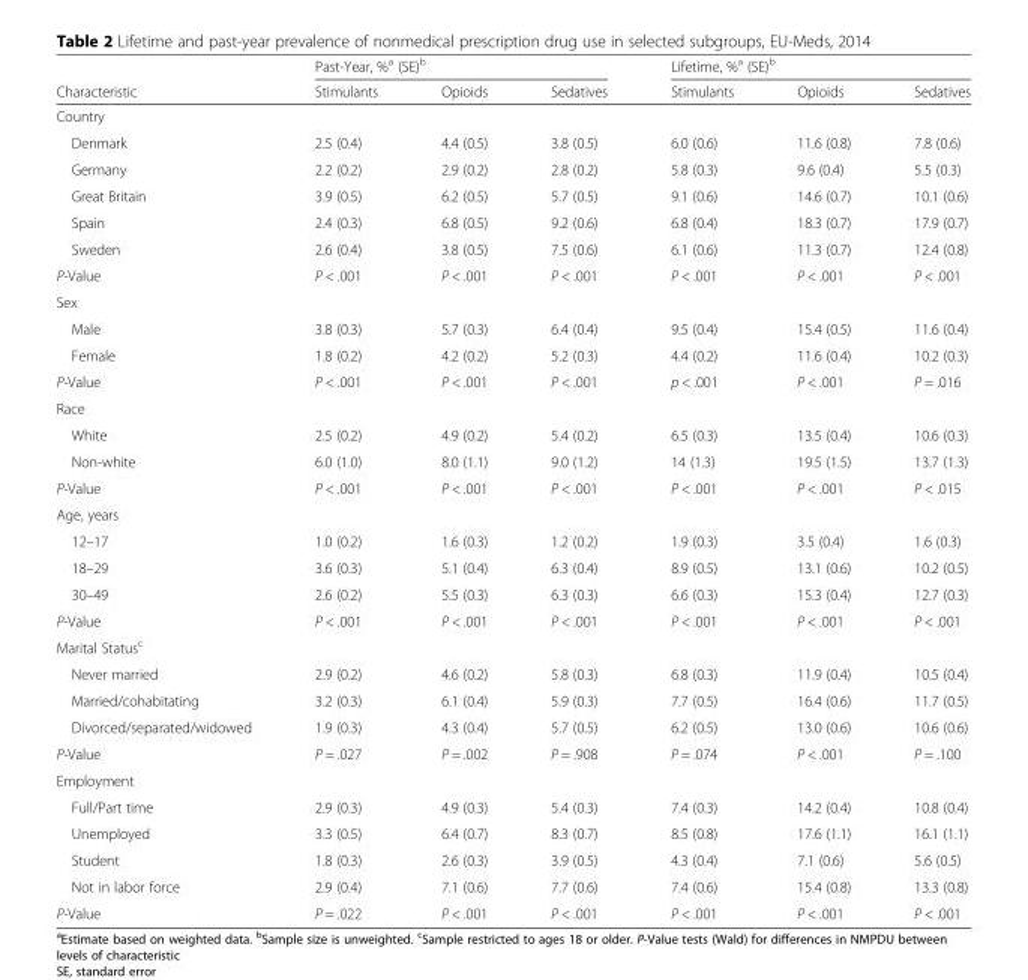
<table><thead><tr><td rowspan="2">Characteristic</td><td colspan="3">Past-Year, %<sup>a</sup> (SE)<sup>b</sup></td><td colspan="3">Lifetime, %<sup>a</sup> (SE)<sup>b</sup></td></tr><tr><td>Stimulants</td><td>Opioids</td><td>Sedatives</td><td>Stimulants</td><td>Opioids</td><td>Sedatives</td></tr></thead><tbody><tr><td colspan="7">Country</td></tr><tr><td>Denmark</td><td>2.5 (0.4)</td><td>4.4 (0.5)</td><td>3.8 (0.5)</td><td>6.0 (0.6)</td><td>11.6 (0.8)</td><td>7.8 (0.6)</td></tr><tr><td>Germany</td><td>2.2 (0.2)</td><td>2.9 (0.2)</td><td>2.8 (0.2)</td><td>5.8 (0.3)</td><td>9.6 (0.4)</td><td>5.5 (0.3)</td></tr><tr><td>Great Britain</td><td>3.9 (0.5)</td><td>6.2 (0.5)</td><td>5.7 (0.5)</td><td>9.1 (0.6)</td><td>14.6 (0.7)</td><td>10.1 (0.6)</td></tr><tr><td>Spain</td><td>2.4 (0.3)</td><td>6.8 (0.5)</td><td>9.2 (0.6)</td><td>6.8 (0.4)</td><td>18.3 (0.7)</td><td>17.9 (0.7)</td></tr><tr><td>Sweden</td><td>2.6 (0.4)</td><td>3.8 (0.5)</td><td>7.5 (0.6)</td><td>6.1 (0.6)</td><td>11.3 (0.7)</td><td>12.4 (0.8)</td></tr><tr><td>P-Value</td><td>P &lt; .001</td><td>P &lt; .001</td><td>P &lt; .001</td><td>P &lt; .001</td><td>P &lt; .001</td><td>P &lt; .001</td></tr><tr><td colspan="7">Sex</td></tr><tr><td>Male</td><td>3.8 (0.3)</td><td>5.7 (0.3)</td><td>6.4 (0.4)</td><td>9.5 (0.4)</td><td>15.4 (0.5)</td><td>11.6 (0.4)</td></tr><tr><td>Female</td><td>1.8 (0.2)</td><td>4.2 (0.2)</td><td>5.2 (0.3)</td><td>4.4 (0.2)</td><td>11.6 (0.4)</td><td>10.2 (0.3)</td></tr><tr><td>P-Value</td><td>P &lt; .001</td><td>P &lt; .001</td><td>P &lt; .001</td><td>p &lt; .001</td><td>P &lt; .001</td><td>P = .016</td></tr><tr><td colspan="7">Race</td></tr><tr><td>White</td><td>2.5 (0.2)</td><td>4.9 (0.2)</td><td>5.4 (0.2)</td><td>6.5 (0.3)</td><td>13.5 (0.4)</td><td>10.6 (0.3)</td></tr><tr><td>Non-white</td><td>6.0 (1.0)</td><td>8.0 (1.1)</td><td>9.0 (1.2)</td><td>14 (1.3)</td><td>19.5 (1.5)</td><td>13.7 (1.3)</td></tr><tr><td>P-Value</td><td>P &lt; .001</td><td>P &lt; .001</td><td>P &lt; .001</td><td>P &lt; .001</td><td>P &lt; .001</td><td>P &lt; .015</td></tr><tr><td colspan="7">Age, years</td></tr><tr><td>12–17</td><td>1.0 (0.2)</td><td>1.6 (0.3)</td><td>1.2 (0.2)</td><td>1.9 (0.3)</td><td>3.5 (0.4)</td><td>1.6 (0.3)</td></tr><tr><td>18–29</td><td>3.6 (0.3)</td><td>5.1 (0.4)</td><td>6.3 (0.4)</td><td>8.9 (0.5)</td><td>13.1 (0.6)</td><td>10.2 (0.5)</td></tr><tr><td>30–49</td><td>2.6 (0.2)</td><td>5.5 (0.3)</td><td>6.3 (0.3)</td><td>6.6 (0.3)</td><td>15.3 (0.4)</td><td>12.7 (0.3)</td></tr><tr><td>P-Value</td><td>P &lt; .001</td><td>P &lt; .001</td><td>P &lt; .001</td><td>P &lt; .001</td><td>P &lt; .001</td><td>P &lt; .001</td></tr><tr><td colspan="7">Marital Status<sup>c</sup></td></tr><tr><td>Never married</td><td>2.9 (0.2)</td><td>4.6 (0.2)</td><td>5.8 (0.3)</td><td>6.8 (0.3)</td><td>11.9 (0.4)</td><td>10.5 (0.4)</td></tr><tr><td>Married/cohabitating</td><td>3.2 (0.3)</td><td>6.1 (0.4)</td><td>5.9 (0.3)</td><td>7.7 (0.5)</td><td>16.4 (0.6)</td><td>11.7 (0.5)</td></tr><tr><td>Divorced/separated/widowed</td><td>1.9 (0.3)</td><td>4.3 (0.4)</td><td>5.7 (0.5)</td><td>6.2 (0.5)</td><td>13.0 (0.6)</td><td>10.6 (0.6)</td></tr><tr><td>P-Value</td><td>P = .027</td><td>P = .002</td><td>P = .908</td><td>P = .074</td><td>P &lt; .001</td><td>P = .100</td></tr><tr><td colspan="7">Employment</td></tr><tr><td>Full/Part time</td><td>2.9 (0.3)</td><td>4.9 (0.3)</td><td>5.4 (0.3)</td><td>7.4 (0.3)</td><td>14.2 (0.4)</td><td>10.8 (0.4)</td></tr><tr><td>Unemployed</td><td>3.3 (0.5)</td><td>6.4 (0.7)</td><td>8.3 (0.7)</td><td>8.5 (0.8)</td><td>17.6 (1.1)</td><td>16.1 (1.1)</td></tr><tr><td>Student</td><td>1.8 (0.3)</td><td>2.6 (0.3)</td><td>3.9 (0.5)</td><td>4.3 (0.4)</td><td>7.1 (0.6)</td><td>5.6 (0.5)</td></tr><tr><td>Not in labor force</td><td>2.9 (0.4)</td><td>7.1 (0.6)</td><td>7.7 (0.6)</td><td>7.4 (0.6)</td><td>15.4 (0.8)</td><td>13.3 (0.8)</td></tr><tr><td>P-Value</td><td>P = .022</td><td>P &lt; .001</td><td>P &lt; .001</td><td>P &lt; .001</td><td>P &lt; .001</td><td>P &lt; .001</td></tr></tbody></table>